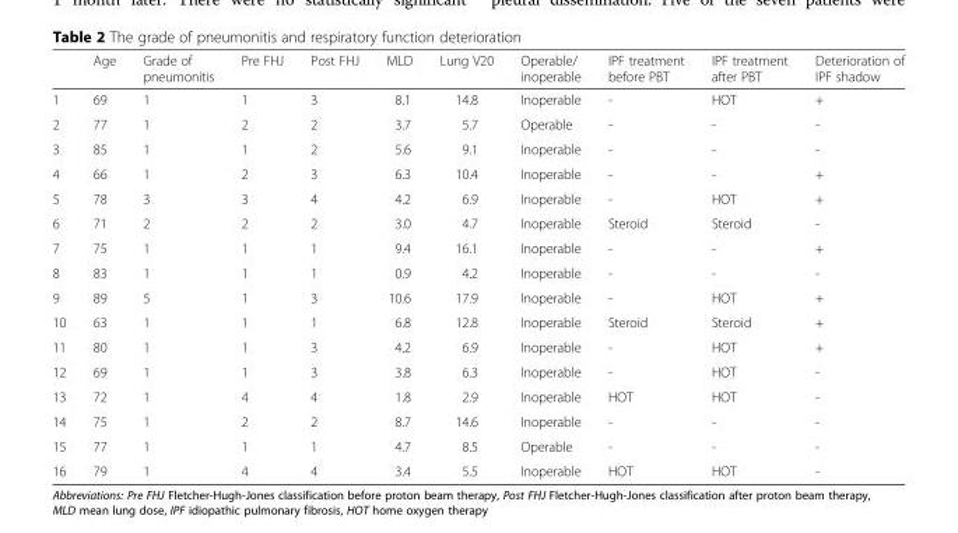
<table><thead><tr><td></td><td>Age</td><td>Grade of pneumonitis</td><td>Pre FHJ</td><td>Post FHJ</td><td>MLD</td><td>Lung V20</td><td>Operable/ inoperable</td><td>IPF treatment before PBT</td><td>IPF treatment after PBT</td><td>Deterioration of IPF shadow</td></tr></thead><tbody><tr><td>1</td><td>69</td><td>1</td><td>1</td><td>3</td><td>8.1</td><td>14.8</td><td>Inoperable</td><td>-</td><td>HOT</td><td>+</td></tr><tr><td>2</td><td>77</td><td>1</td><td>2</td><td>2</td><td>3.7</td><td>5.7</td><td>Operable</td><td>-</td><td>-</td><td>-</td></tr><tr><td>3</td><td>85</td><td>1</td><td>1</td><td>2</td><td>5.6</td><td>9.1</td><td>Inoperable</td><td>-</td><td>-</td><td>-</td></tr><tr><td>4</td><td>66</td><td>1</td><td>2</td><td>3</td><td>6.3</td><td>10.4</td><td>Inoperable</td><td>-</td><td>-</td><td>+</td></tr><tr><td>5</td><td>78</td><td>3</td><td>3</td><td>4</td><td>4.2</td><td>6.9</td><td>Inoperable</td><td>-</td><td>HOT</td><td>+</td></tr><tr><td>6</td><td>71</td><td>2</td><td>2</td><td>2</td><td>3.0</td><td>4.7</td><td>Inoperable</td><td>Steroid</td><td>Steroid</td><td>-</td></tr><tr><td>7</td><td>75</td><td>1</td><td>1</td><td>1</td><td>9.4</td><td>16.1</td><td>Inoperable</td><td>-</td><td>-</td><td>+</td></tr><tr><td>8</td><td>83</td><td>1</td><td>1</td><td>1</td><td>0.9</td><td>4.2</td><td>Inoperable</td><td>-</td><td>-</td><td>-</td></tr><tr><td>9</td><td>89</td><td>5</td><td>1</td><td>3</td><td>10.6</td><td>17.9</td><td>Inoperable</td><td>-</td><td>HOT</td><td>+</td></tr><tr><td>10</td><td>63</td><td>1</td><td>1</td><td>1</td><td>6.8</td><td>12.8</td><td>Inoperable</td><td>Steroid</td><td>Steroid</td><td>+</td></tr><tr><td>11</td><td>80</td><td>1</td><td>1</td><td>3</td><td>4.2</td><td>6.9</td><td>Inoperable</td><td>-</td><td>HOT</td><td>+</td></tr><tr><td>12</td><td>69</td><td>1</td><td>1</td><td>3</td><td>3.8</td><td>6.3</td><td>Inoperable</td><td>-</td><td>HOT</td><td>-</td></tr><tr><td>13</td><td>72</td><td>1</td><td>4</td><td>4</td><td>1.8</td><td>2.9</td><td>Inoperable</td><td>HOT</td><td>HOT</td><td>-</td></tr><tr><td>14</td><td>75</td><td>1</td><td>2</td><td>2</td><td>8.7</td><td>14.6</td><td>Inoperable</td><td>-</td><td>-</td><td>-</td></tr><tr><td>15</td><td>77</td><td>1</td><td>1</td><td>1</td><td>4.7</td><td>8.5</td><td>Operable</td><td>-</td><td>-</td><td>-</td></tr><tr><td>16</td><td>79</td><td>1</td><td>4</td><td>4</td><td>3.4</td><td>5.5</td><td>Inoperable</td><td>HOT</td><td>HOT</td><td>-</td></tr></tbody></table>